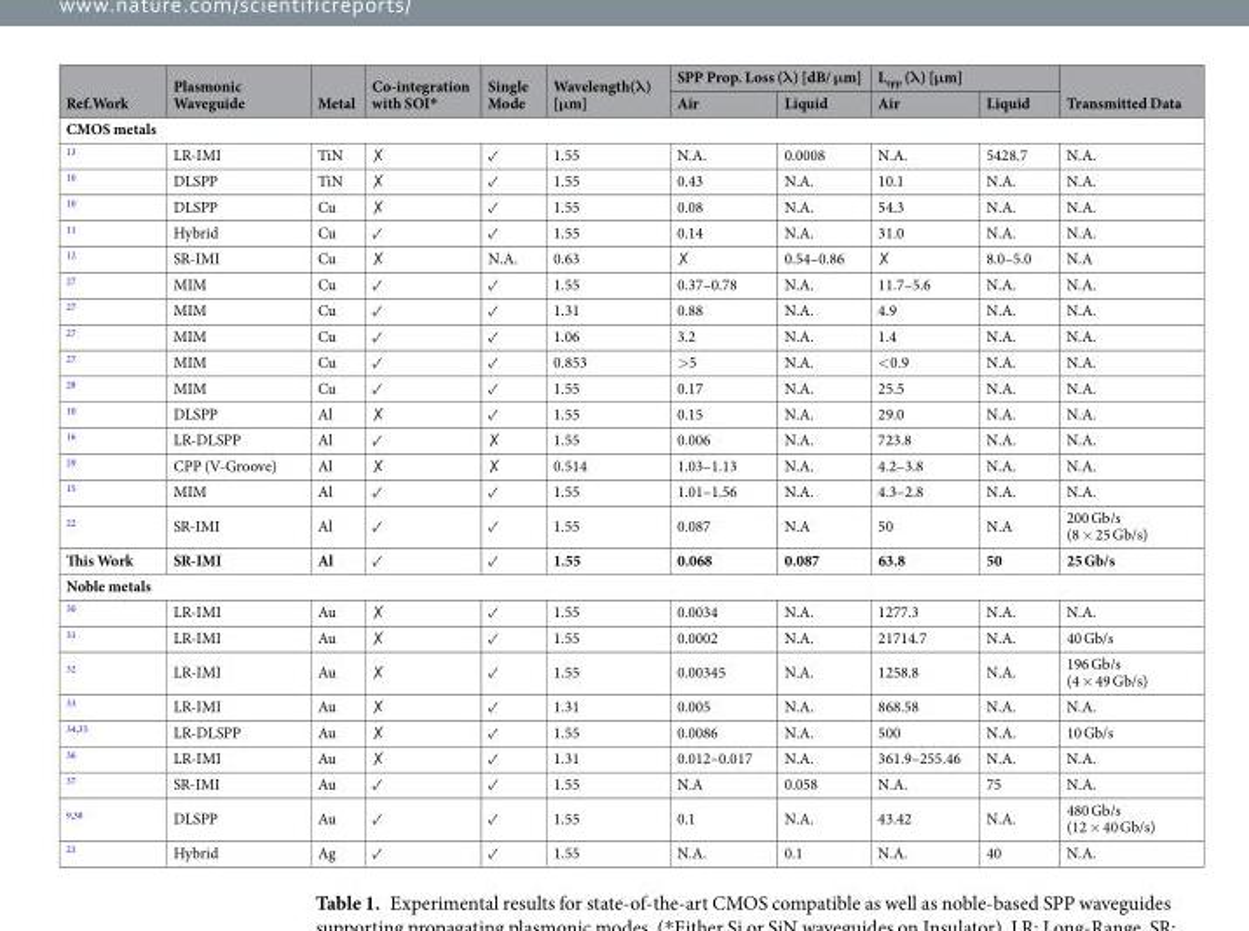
<table><thead><tr><td rowspan="2">Ref.Work</td><td rowspan="2">Plasmonic Waveguide</td><td rowspan="2">Metal</td><td rowspan="2">Co-integration with SOI*</td><td rowspan="2">Single Mode</td><td rowspan="2">Wavelength(λ) [μm]</td><td colspan="2">SPP Prop. Loss (λ) [dB/ μm]</td><td colspan="2">L<sub>spp</sub> (λ) [μm]</td><td rowspan="2">Transmitted Data</td></tr><tr><td>Air</td><td>Liquid</td><td>Air</td><td>Liquid</td></tr></thead><tbody><tr><td colspan="11">CMOS metals</td></tr><tr><td><sup>13</sup></td><td>LR-IMI</td><td>TiN</td><td>✗</td><td>✓</td><td>1.55</td><td>N.A.</td><td>0.0008</td><td>N.A.</td><td>5428.7</td><td>N.A.</td></tr><tr><td><sup>10</sup></td><td>DLSPP</td><td>TiN</td><td>✗</td><td>✓</td><td>1.55</td><td>0.43</td><td>N.A.</td><td>10.1</td><td>N.A.</td><td>N.A.</td></tr><tr><td><sup>10</sup></td><td>DLSPP</td><td>Cu</td><td>✗</td><td>✓</td><td>1.55</td><td>0.08</td><td>N.A.</td><td>54.3</td><td>N.A.</td><td>N.A.</td></tr><tr><td><sup>11</sup></td><td>Hybrid</td><td>Cu</td><td>✓</td><td>✓</td><td>1.55</td><td>0.14</td><td>N.A.</td><td>31.0</td><td>N.A.</td><td>N.A.</td></tr><tr><td><sup>12</sup></td><td>SR-IMI</td><td>Cu</td><td>✗</td><td>N.A.</td><td>0.63</td><td>✗</td><td>0.54–0.86</td><td>✗</td><td>8.0–5.0</td><td>N.A</td></tr><tr><td><sup>27</sup></td><td>MIM</td><td>Cu</td><td>✓</td><td>✓</td><td>1.55</td><td>0.37–0.78</td><td>N.A.</td><td>11.7–5.6</td><td>N.A.</td><td>N.A.</td></tr><tr><td><sup>27</sup></td><td>MIM</td><td>Cu</td><td>✓</td><td>✓</td><td>1.31</td><td>0.88</td><td>N.A.</td><td>4.9</td><td>N.A.</td><td>N.A.</td></tr><tr><td><sup>27</sup></td><td>MIM</td><td>Cu</td><td>✓</td><td>✓</td><td>1.06</td><td>3.2</td><td>N.A.</td><td>1.4</td><td>N.A.</td><td>N.A.</td></tr><tr><td><sup>27</sup></td><td>MIM</td><td>Cu</td><td>✓</td><td>✓</td><td>0.853</td><td>&gt;5</td><td>N.A.</td><td>&lt;0.9</td><td>N.A.</td><td>N.A.</td></tr><tr><td><sup>28</sup></td><td>MIM</td><td>Cu</td><td>✓</td><td>✓</td><td>1.55</td><td>0.17</td><td>N.A.</td><td>25.5</td><td>N.A.</td><td>N.A.</td></tr><tr><td><sup>10</sup></td><td>DLSPP</td><td>Al</td><td>✗</td><td>✓</td><td>1.55</td><td>0.15</td><td>N.A.</td><td>29.0</td><td>N.A.</td><td>N.A.</td></tr><tr><td><sup>16</sup></td><td>LR-DLSPP</td><td>Al</td><td>✓</td><td>✗</td><td>1.55</td><td>0.006</td><td>N.A.</td><td>723.8</td><td>N.A.</td><td>N.A.</td></tr><tr><td><sup>29</sup></td><td>CPP (V-Groove)</td><td>Al</td><td>✗</td><td>✗</td><td>0.514</td><td>1.03–1.13</td><td>N.A.</td><td>4.2–3.8</td><td>N.A.</td><td>N.A.</td></tr><tr><td><sup>15</sup></td><td>MIM</td><td>Al</td><td>✓</td><td>✓</td><td>1.55</td><td>1.01–1.56</td><td>N.A.</td><td>4.3–2.8</td><td>N.A.</td><td>N.A.</td></tr><tr><td><sup>22</sup></td><td>SR-IMI</td><td>Al</td><td>✓</td><td>✓</td><td>1.55</td><td>0.087</td><td>N.A</td><td>50</td><td>N.A</td><td>200 Gb/s (8 × 25 Gb/s)</td></tr><tr><td>This Work</td><td>SR-IMI</td><td>Al</td><td>✓</td><td>✓</td><td>1.55</td><td>0.068</td><td>0.087</td><td>63.8</td><td>50</td><td>25 Gb/s</td></tr><tr><td colspan="11">Noble metals</td></tr><tr><td><sup>30</sup></td><td>LR-IMI</td><td>Au</td><td>✗</td><td>✓</td><td>1.55</td><td>0.0034</td><td>N.A.</td><td>1277.3</td><td>N.A.</td><td>N.A.</td></tr><tr><td><sup>31</sup></td><td>LR-IMI</td><td>Au</td><td>✗</td><td>✓</td><td>1.55</td><td>0.0002</td><td>N.A.</td><td>21714.7</td><td>N.A.</td><td>40 Gb/s</td></tr><tr><td><sup>32</sup></td><td>LR-IMI</td><td>Au</td><td>✗</td><td>✓</td><td>1.55</td><td>0.00345</td><td>N.A.</td><td>1258.8</td><td>N.A.</td><td>196 Gb/s (4 × 49 Gb/s)</td></tr><tr><td><sup>33</sup></td><td>LR-IMI</td><td>Au</td><td>✗</td><td>✓</td><td>1.31</td><td>0.005</td><td>N.A.</td><td>868.58</td><td>N.A.</td><td>N.A.</td></tr><tr><td><sup>34,35</sup></td><td>LR-DLSPP</td><td>Au</td><td>✗</td><td>✓</td><td>1.55</td><td>0.0086</td><td>N.A.</td><td>500</td><td>N.A.</td><td>10 Gb/s</td></tr><tr><td><sup>36</sup></td><td>LR-IMI</td><td>Au</td><td>✗</td><td>✓</td><td>1.31</td><td>0.012–0.017</td><td>N.A.</td><td>361.9–255.46</td><td>N.A.</td><td>N.A.</td></tr><tr><td><sup>37</sup></td><td>SR-IMI</td><td>Au</td><td>✓</td><td>✓</td><td>1.55</td><td>N.A</td><td>0.058</td><td>N.A.</td><td>75</td><td>N.A.</td></tr><tr><td><sup>9,38</sup></td><td>DLSPP</td><td>Au</td><td>✓</td><td>✓</td><td>1.55</td><td>0.1</td><td>N.A.</td><td>43.42</td><td>N.A.</td><td>480 Gb/s (12 × 40 Gb/s)</td></tr><tr><td><sup>21</sup></td><td>Hybrid</td><td>Ag</td><td>✓</td><td>✓</td><td>1.55</td><td>N.A.</td><td>0.1</td><td>N.A.</td><td>40</td><td>N.A.</td></tr></tbody></table>